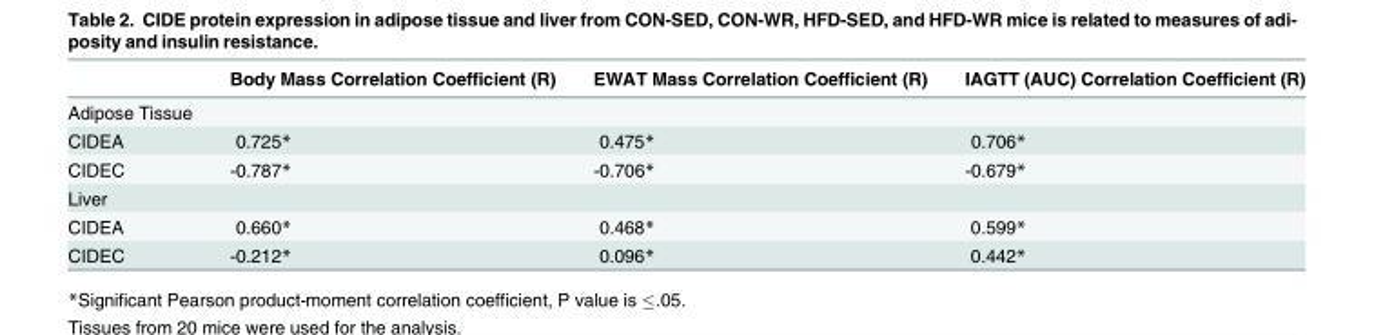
<table><thead><tr><td></td><td>Body Mass Correlation Coefficient (R)</td><td>EWAT Mass Correlation Coefficient (R)</td><td>IAGTT (AUC) Correlation Coefficient (R)</td></tr></thead><tbody><tr><td colspan="4">Adipose Tissue</td></tr><tr><td>CIDEA</td><td>0.725*</td><td>0.475*</td><td>0.706*</td></tr><tr><td>CIDEC</td><td>-0.787*</td><td>-0.706*</td><td>-0.679*</td></tr><tr><td colspan="4">Liver</td></tr><tr><td>CIDEA</td><td>0.660*</td><td>0.468*</td><td>0.599*</td></tr><tr><td>CIDEC</td><td>-0.212*</td><td>0.096*</td><td>0.442*</td></tr></tbody></table>